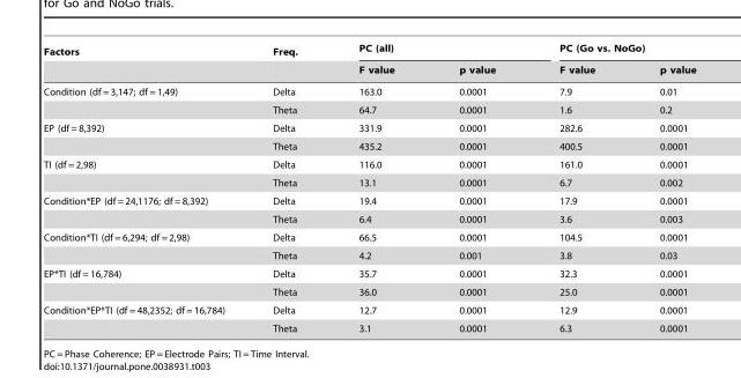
<table><thead><tr><td rowspan="2">Factors</td><td rowspan="2">Freq.</td><td colspan="2">PC (all)</td><td colspan="2">PC (Go vs. NoGo)</td></tr><tr><td>F value</td><td>p value</td><td>F value</td><td>p value</td></tr></thead><tbody><tr><td rowspan="2">Condition (df = 3,147; df = 1,49)</td><td>Delta</td><td>163.0</td><td>0.0001</td><td>7.9</td><td>0.01</td></tr><tr><td>Theta</td><td>64.7</td><td>0.0001</td><td>1.6</td><td>0.2</td></tr><tr><td rowspan="2">EP (df = 8,392)</td><td>Delta</td><td>331.9</td><td>0.0001</td><td>282.6</td><td>0.0001</td></tr><tr><td>Theta</td><td>435.2</td><td>0.0001</td><td>400.5</td><td>0.0001</td></tr><tr><td rowspan="2">TI (df = 2,98)</td><td>Delta</td><td>116.0</td><td>0.0001</td><td>161.0</td><td>0.0001</td></tr><tr><td>Theta</td><td>13.1</td><td>0.0001</td><td>6.7</td><td>0.002</td></tr><tr><td rowspan="2">Condition*EP (df = 24,1176; df = 8,392)</td><td>Delta</td><td>19.4</td><td>0.0001</td><td>17.9</td><td>0.0001</td></tr><tr><td>Theta</td><td>6.4</td><td>0.0001</td><td>3.6</td><td>0.003</td></tr><tr><td rowspan="2">Condition*TI (df = 6,294; df = 2,98)</td><td>Delta</td><td>66.5</td><td>0.0001</td><td>104.5</td><td>0.0001</td></tr><tr><td>Theta</td><td>4.2</td><td>0.001</td><td>3.8</td><td>0.03</td></tr><tr><td rowspan="2">EP*TI (df = 16,784)</td><td>Delta</td><td>35.7</td><td>0.0001</td><td>32.3</td><td>0.0001</td></tr><tr><td>Theta</td><td>36.0</td><td>0.0001</td><td>25.0</td><td>0.0001</td></tr><tr><td rowspan="2">Condition*EP*TI (df = 48,2352; df = 16,784)</td><td>Delta</td><td>12.7</td><td>0.0001</td><td>12.9</td><td>0.0001</td></tr><tr><td>Theta</td><td>3.1</td><td>0.0001</td><td>6.3</td><td>0.0001</td></tr></tbody></table>